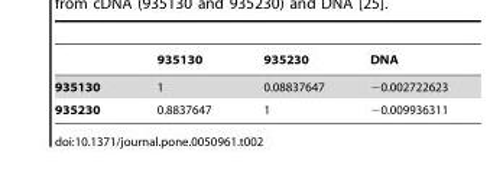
<table><thead><tr><td></td><td>935130</td><td>935230</td><td>DNA</td></tr></thead><tbody><tr><td>935130</td><td>1</td><td>0.08837647</td><td>−0.002722623</td></tr><tr><td>935230</td><td>0.8837647</td><td>1</td><td>−0.009936311</td></tr></tbody></table>